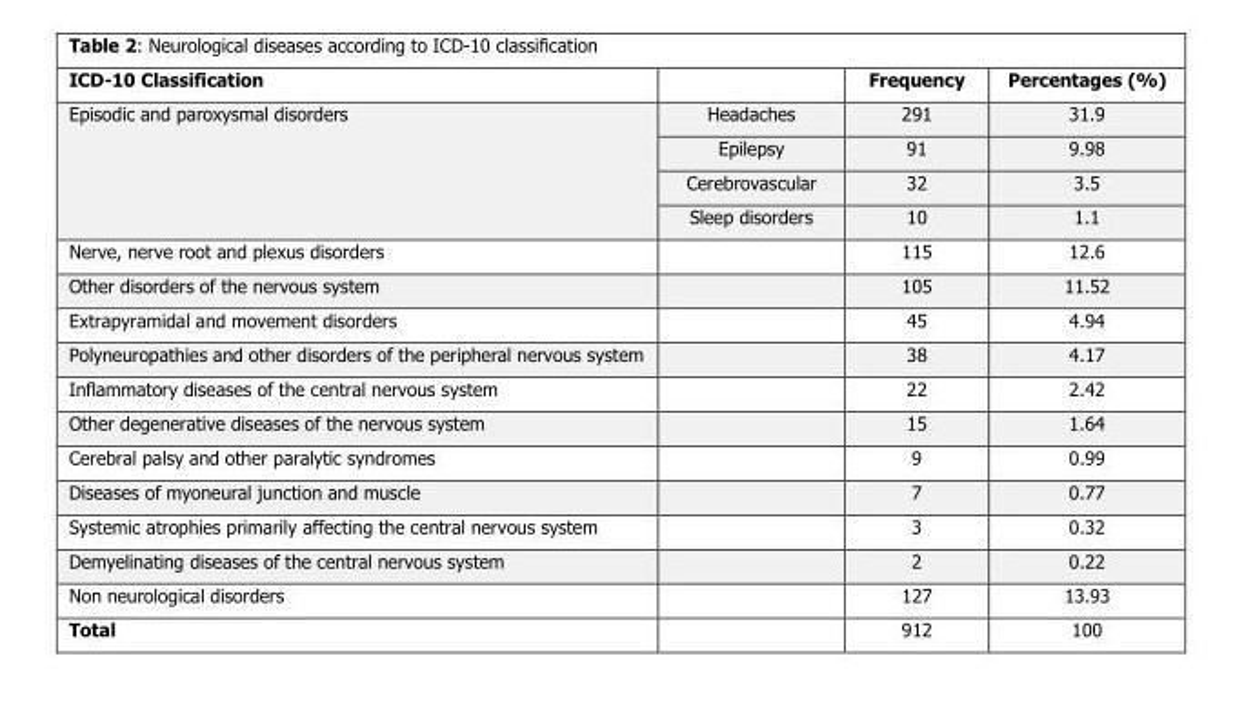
<table><thead><tr><td>ICD-10 Classification</td><td></td><td>Frequency</td><td>Percentages (%)</td></tr></thead><tbody><tr><td rowspan="4">Episodic and paroxysmal disorders</td><td>Headaches</td><td>291</td><td>31.9</td></tr><tr><td>Epilepsy</td><td>91</td><td>9.98</td></tr><tr><td>Cerebrovascular</td><td>32</td><td>3.5</td></tr><tr><td>Sleep disorders</td><td>10</td><td>1.1</td></tr><tr><td>Nerve, nerve root and plexus disorders</td><td></td><td>115</td><td>12.6</td></tr><tr><td>Other disorders of the nervous system</td><td></td><td>105</td><td>11.52</td></tr><tr><td>Extrapyramidal and movement disorders</td><td></td><td>45</td><td>4.94</td></tr><tr><td>Polyneuropathies and other disorders of the peripheral nervous system</td><td></td><td>38</td><td>4.17</td></tr><tr><td>Inflammatory diseases of the central nervous system</td><td></td><td>22</td><td>2.42</td></tr><tr><td>Other degenerative diseases of the nervous system</td><td></td><td>15</td><td>1.64</td></tr><tr><td>Cerebral palsy and other paralytic syndromes</td><td></td><td>9</td><td>0.99</td></tr><tr><td>Diseases of myoneural junction and muscle</td><td></td><td>7</td><td>0.77</td></tr><tr><td>Systemic atrophies primarily affecting the central nervous system</td><td></td><td>3</td><td>0.32</td></tr><tr><td>Demyelinating diseases of the central nervous system</td><td></td><td>2</td><td>0.22</td></tr><tr><td>Non neurological disorders</td><td></td><td>127</td><td>13.93</td></tr><tr><td>Total</td><td></td><td>912</td><td>100</td></tr></tbody></table>